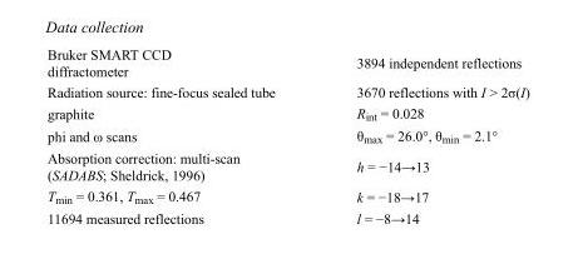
<table><tbody><tr><td>Bruker SMART CCD diffractometer</td><td>3894 independent reflections</td></tr><tr><td>Radiation source: fine-focus sealed tube</td><td>3670 reflections with I &gt; 2σ(I)</td></tr><tr><td>graphite</td><td>R<sub>int</sub> = 0.028</td></tr><tr><td>phi and ω scans</td><td>θ<sub>max</sub> = 26.0°, θ<sub>min</sub> = 2.1°</td></tr><tr><td>Absorption correction: multi-scan (SADABS; Sheldrick, 1996)</td><td>h = −14→13</td></tr><tr><td>T<sub>min</sub> = 0.361, T<sub>max</sub> = 0.467</td><td>k = −18→17</td></tr><tr><td>11694 measured reflections</td><td>l = −8→14</td></tr></tbody></table>